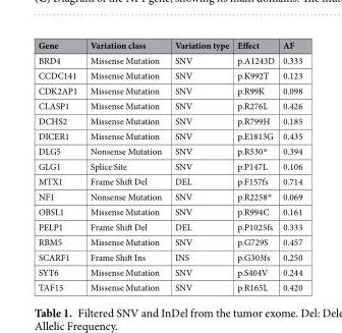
<table><thead><tr><td>Gene</td><td>Variation class</td><td>Variation type</td><td>Effect</td><td>AF</td></tr></thead><tbody><tr><td>BRD4</td><td>Missense Mutation</td><td>SNV</td><td>p.A1243D</td><td>0.333</td></tr><tr><td>CCDC141</td><td>Missense Mutation</td><td>SNV</td><td>p.K992T</td><td>0.123</td></tr><tr><td>CDK2AP1</td><td>Missense Mutation</td><td>SNV</td><td>p.R99K</td><td>0.098</td></tr><tr><td>CLASP1</td><td>Missense Mutation</td><td>SNV</td><td>p.R276L</td><td>0.426</td></tr><tr><td>DCHS2</td><td>Missense Mutation</td><td>SNV</td><td>p.R799H</td><td>0.185</td></tr><tr><td>DICER1</td><td>Missense Mutation</td><td>SNV</td><td>p.E1813G</td><td>0.435</td></tr><tr><td>DLG5</td><td>Nonsense Mutation</td><td>SNV</td><td>p.R530*</td><td>0.394</td></tr><tr><td>GLG1</td><td>Splice Site</td><td>SNV</td><td>p.P147L</td><td>0.106</td></tr><tr><td>MTX1</td><td>Frame Shift Del</td><td>DEL</td><td>p.F157fs</td><td>0.714</td></tr><tr><td>NF1</td><td>Nonsense Mutation</td><td>SNV</td><td>p.R2258*</td><td>0.069</td></tr><tr><td>OBSL1</td><td>Missense Mutation</td><td>SNV</td><td>p.R994C</td><td>0.161</td></tr><tr><td>PELP1</td><td>Frame Shift Del</td><td>DEL</td><td>p.P1025fs</td><td>0.333</td></tr><tr><td>RBM5</td><td>Missense Mutation</td><td>SNV</td><td>p.G729S</td><td>0.457</td></tr><tr><td>SCARF1</td><td>Frame Shift Ins</td><td>INS</td><td>p.G303fs</td><td>0.250</td></tr><tr><td>SYT6</td><td>Missense Mutation</td><td>SNV</td><td>p.S404V</td><td>0.244</td></tr><tr><td>TAF15</td><td>Missense Mutation</td><td>SNV</td><td>p.R165L</td><td>0.420</td></tr></tbody></table>